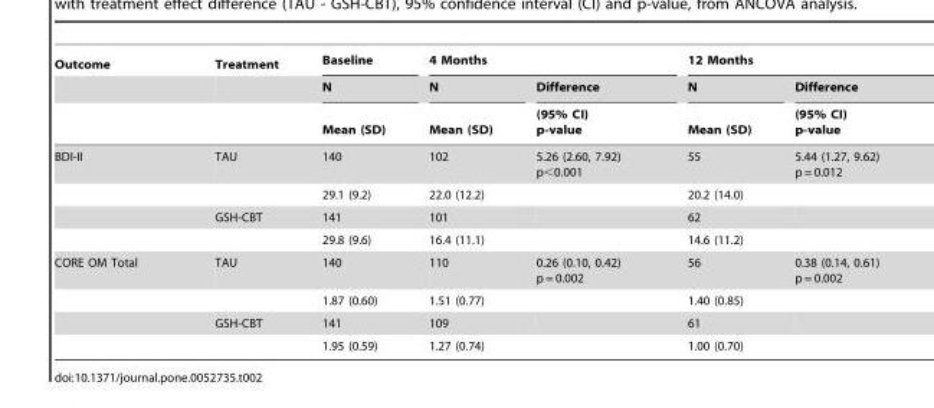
<table><thead><tr><td rowspan="3">Outcome</td><td rowspan="3">Treatment</td><td rowspan="3">Baseline N Mean (SD)</td><td colspan="2">4 Months</td><td colspan="2">12 Months</td></tr><tr><td rowspan="2">N Mean (SD)</td><td rowspan="2">Difference (95% CI) p-value</td><td rowspan="2">N Mean (SD)</td><td rowspan="2">Difference (95% CI) p-value</td></tr><tr></tr></thead><tbody><tr><td rowspan="4">BDI-II</td><td>TAU</td><td>140</td><td>102</td><td>5.26 (2.60, 7.92) p&lt;0.001</td><td>55</td><td>5.44 (1.27, 9.62) p = 0.012</td></tr><tr><td></td><td>29.1 (9.2)</td><td>22.0 (12.2)</td><td></td><td>20.2 (14.0)</td><td></td></tr><tr><td>GSH-CBT</td><td>141</td><td>101</td><td></td><td>62</td><td></td></tr><tr><td></td><td>29.8 (9.6)</td><td>16.4 (11.1)</td><td></td><td>14.6 (11.2)</td><td></td></tr><tr><td rowspan="4">CORE OM Total</td><td>TAU</td><td>140</td><td>110</td><td>0.26 (0.10, 0.42) p = 0.002</td><td>56</td><td>0.38 (0.14, 0.61) p = 0.002</td></tr><tr><td></td><td>1.87 (0.60)</td><td>1.51 (0.77)</td><td></td><td>1.40 (0.85)</td><td></td></tr><tr><td>GSH-CBT</td><td>141</td><td>109</td><td></td><td>61</td><td></td></tr><tr><td></td><td>1.95 (0.59)</td><td>1.27 (0.74)</td><td></td><td>1.00 (0.70)</td><td></td></tr></tbody></table>